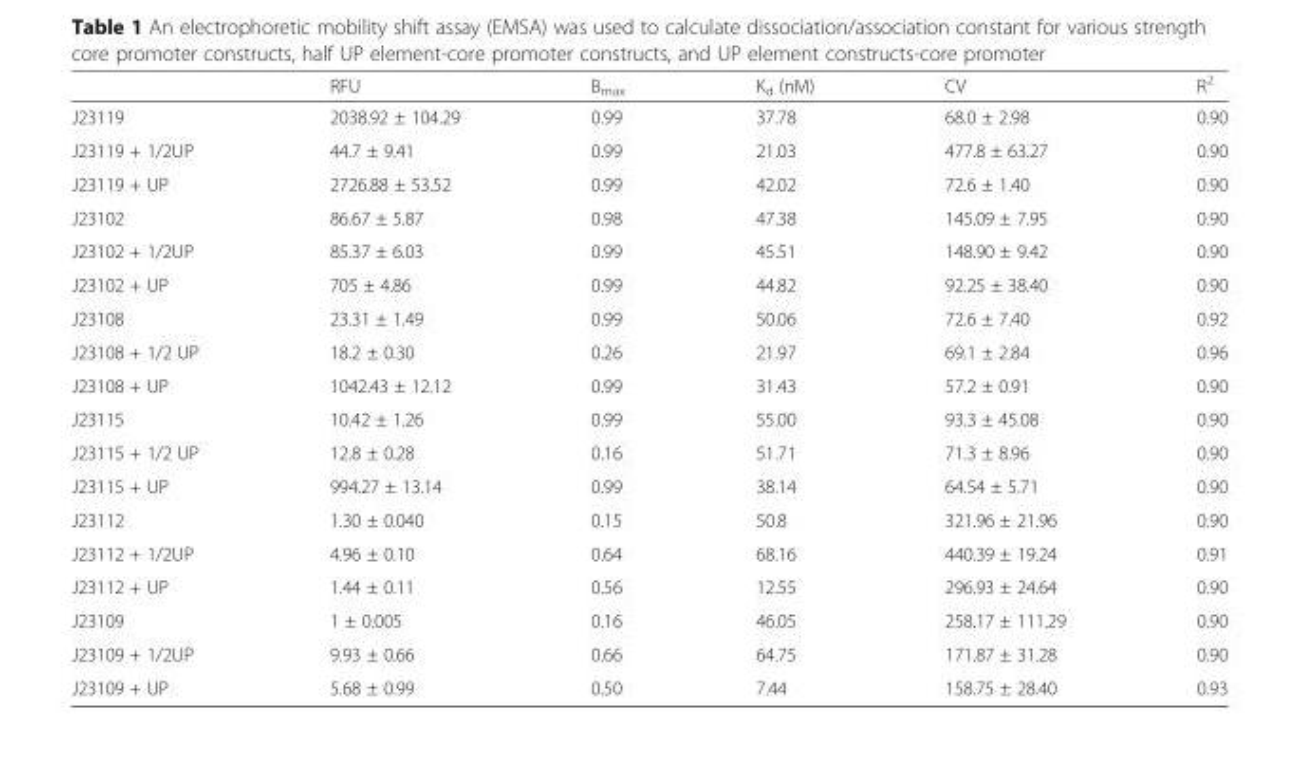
<table><thead><tr><td></td><td>RFU</td><td>B<sub>max</sub></td><td>K<sub>d</sub> (nM)</td><td>CV</td><td>R<sup>2</sup></td></tr></thead><tbody><tr><td>J23119</td><td>2038.92 ± 104.29</td><td>0.99</td><td>37.78</td><td>68.0 ± 2.98</td><td>0.90</td></tr><tr><td>J23119 + 1/2UP</td><td>44.7 ± 9.41</td><td>0.99</td><td>21.03</td><td>477.8 ± 63.27</td><td>0.90</td></tr><tr><td>J23119 + UP</td><td>2726.88 ± 53.52</td><td>0.99</td><td>42.02</td><td>72.6 ± 1.40</td><td>0.90</td></tr><tr><td>J23102</td><td>86.67 ± 5.87</td><td>0.98</td><td>47.38</td><td>145.09 ± 7.95</td><td>0.90</td></tr><tr><td>J23102 + 1/2UP</td><td>85.37 ± 6.03</td><td>0.99</td><td>45.51</td><td>148.90 ± 9.42</td><td>0.90</td></tr><tr><td>J23102 + UP</td><td>705 ± 4.86</td><td>0.99</td><td>44.82</td><td>92.25 ± 38.40</td><td>0.90</td></tr><tr><td>J23108</td><td>23.31 ± 1.49</td><td>0.99</td><td>50.06</td><td>72.6 ± 7.40</td><td>0.92</td></tr><tr><td>J23108 + 1/2 UP</td><td>18.2 ± 0.30</td><td>0.26</td><td>21.97</td><td>69.1 ± 2.84</td><td>0.96</td></tr><tr><td>J23108 + UP</td><td>1042.43 ± 12.12</td><td>0.99</td><td>31.43</td><td>57.2 ± 0.91</td><td>0.90</td></tr><tr><td>J23115</td><td>10.42 ± 1.26</td><td>0.99</td><td>55.00</td><td>93.3 ± 45.08</td><td>0.90</td></tr><tr><td>J23115 + 1/2 UP</td><td>12.8 ± 0.28</td><td>0.16</td><td>51.71</td><td>71.3 ± 8.96</td><td>0.90</td></tr><tr><td>J23115 + UP</td><td>994.27 ± 13.14</td><td>0.99</td><td>38.14</td><td>64.54 ± 5.71</td><td>0.90</td></tr><tr><td>J23112</td><td>1.30 ± 0.040</td><td>0.15</td><td>50.8</td><td>321.96 ± 21.96</td><td>0.90</td></tr><tr><td>J23112 + 1/2UP</td><td>4.96 ± 0.10</td><td>0.64</td><td>68.16</td><td>440.39 ± 19.24</td><td>0.91</td></tr><tr><td>J23112 + UP</td><td>1.44 ± 0.11</td><td>0.56</td><td>12.55</td><td>296.93 ± 24.64</td><td>0.90</td></tr><tr><td>J23109</td><td>1 ± 0.005</td><td>0.16</td><td>46.05</td><td>258.17 ± 111.29</td><td>0.90</td></tr><tr><td>J23109 + 1/2UP</td><td>9.93 ± 0.66</td><td>0.66</td><td>64.75</td><td>171.87 ± 31.28</td><td>0.90</td></tr><tr><td>J23109 + UP</td><td>5.68 ± 0.99</td><td>0.50</td><td>7.44</td><td>158.75 ± 28.40</td><td>0.93</td></tr></tbody></table>